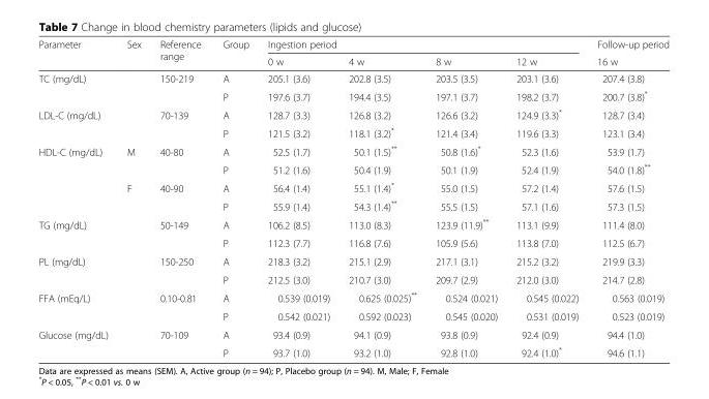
<table><thead><tr><td rowspan="2">Parameter</td><td rowspan="2">Sex</td><td rowspan="2">Reference range</td><td rowspan="2">Group</td><td colspan="4">Ingestion period</td><td rowspan="2">Follow-up period 16 w</td></tr><tr><td>0 w</td><td>4 w</td><td>8 w</td><td>12 w</td></tr></thead><tbody><tr><td rowspan="2">TC (mg/dL)</td><td rowspan="2"></td><td rowspan="2">150-219</td><td>A</td><td>205.1 (3.6)</td><td>202.8 (3.5)</td><td>203.5 (3.5)</td><td>203.1 (3.6)</td><td>207.4 (3.8)</td></tr><tr><td>P</td><td>197.6 (3.7)</td><td>194.4 (3.5)</td><td>197.1 (3.7)</td><td>198.2 (3.7)</td><td>200.7 (3.8)*</td></tr><tr><td rowspan="2">LDL-C (mg/dL)</td><td rowspan="2"></td><td rowspan="2">70-139</td><td>A</td><td>128.7 (3.3)</td><td>126.8 (3.2)</td><td>126.6 (3.2)</td><td>124.9 (3.3)*</td><td>128.7 (3.4)</td></tr><tr><td>P</td><td>121.5 (3.2)</td><td>118.1 (3.2)*</td><td>121.4 (3.4)</td><td>119.6 (3.3)</td><td>123.1 (3.4)</td></tr><tr><td rowspan="4">HDL-C (mg/dL)</td><td rowspan="2">M</td><td rowspan="2">40-80</td><td>A</td><td>52.5 (1.7)</td><td>50.1 (1.5)**</td><td>50.8 (1.6)*</td><td>52.3 (1.6)</td><td>53.9 (1.7)</td></tr><tr><td>P</td><td>51.2 (1.6)</td><td>50.4 (1.9)</td><td>50.1 (1.9)</td><td>52.4 (1.9)</td><td>54.0 (1.8)**</td></tr><tr><td rowspan="2">F</td><td rowspan="2">40-90</td><td>A</td><td>56.4 (1.4)</td><td>55.1 (1.4)*</td><td>55.0 (1.5)</td><td>57.2 (1.4)</td><td>57.6 (1.5)</td></tr><tr><td>P</td><td>55.9 (1.4)</td><td>54.3 (1.4)**</td><td>55.5 (1.5)</td><td>57.1 (1.6)</td><td>57.3 (1.5)</td></tr><tr><td rowspan="2">TG (mg/dL)</td><td rowspan="2"></td><td rowspan="2">50-149</td><td>A</td><td>106.2 (8.5)</td><td>113.0 (8.3)</td><td>123.9 (11.9)**</td><td>113.1 (9.9)</td><td>111.4 (8.0)</td></tr><tr><td>P</td><td>112.3 (7.7)</td><td>116.8 (7.6)</td><td>105.9 (5.6)</td><td>113.8 (7.0)</td><td>112.5 (6.7)</td></tr><tr><td rowspan="2">PL (mg/dL)</td><td rowspan="2"></td><td rowspan="2">150-250</td><td>A</td><td>218.3 (3.2)</td><td>215.1 (2.9)</td><td>217.1 (3.1)</td><td>215.2 (3.2)</td><td>219.9 (3.3)</td></tr><tr><td>P</td><td>212.5 (3.0)</td><td>210.7 (3.0)</td><td>209.7 (2.9)</td><td>212.0 (3.0)</td><td>214.7 (2.8)</td></tr><tr><td rowspan="2">FFA (mEq/L)</td><td rowspan="2"></td><td rowspan="2">0.10-0.81</td><td>A</td><td>0.539 (0.019)</td><td>0.625 (0.025)**</td><td>0.524 (0.021)</td><td>0.545 (0.022)</td><td>0.563 (0.019)</td></tr><tr><td>P</td><td>0.542 (0.021)</td><td>0.592 (0.023)</td><td>0.545 (0.020)</td><td>0.531 (0.019)</td><td>0.523 (0.019)</td></tr><tr><td rowspan="2">Glucose (mg/dL)</td><td rowspan="2"></td><td rowspan="2">70-109</td><td>A</td><td>93.4 (0.9)</td><td>94.1 (0.9)</td><td>93.8 (0.9)</td><td>92.4 (0.9)</td><td>94.4 (1.0)</td></tr><tr><td>P</td><td>93.7 (1.0)</td><td>93.2 (1.0)</td><td>92.8 (1.0)</td><td>92.4 (1.0)*</td><td>94.6 (1.1)</td></tr></tbody></table>